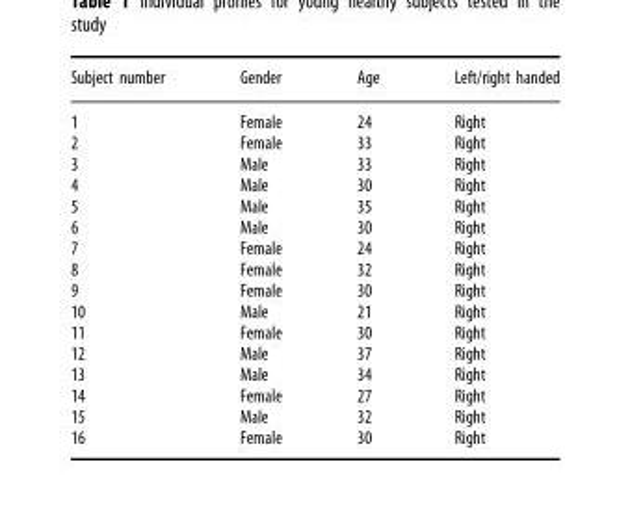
<table><thead><tr><td>Subject number</td><td>Gender</td><td>Age</td><td>Left/right handed</td></tr></thead><tbody><tr><td>1</td><td>Female</td><td>24</td><td>Right</td></tr><tr><td>2</td><td>Female</td><td>33</td><td>Right</td></tr><tr><td>3</td><td>Male</td><td>33</td><td>Right</td></tr><tr><td>4</td><td>Male</td><td>30</td><td>Right</td></tr><tr><td>5</td><td>Male</td><td>35</td><td>Right</td></tr><tr><td>6</td><td>Male</td><td>30</td><td>Right</td></tr><tr><td>7</td><td>Female</td><td>24</td><td>Right</td></tr><tr><td>8</td><td>Female</td><td>32</td><td>Right</td></tr><tr><td>9</td><td>Female</td><td>30</td><td>Right</td></tr><tr><td>10</td><td>Male</td><td>21</td><td>Right</td></tr><tr><td>11</td><td>Female</td><td>30</td><td>Right</td></tr><tr><td>12</td><td>Male</td><td>37</td><td>Right</td></tr><tr><td>13</td><td>Male</td><td>34</td><td>Right</td></tr><tr><td>14</td><td>Female</td><td>27</td><td>Right</td></tr><tr><td>15</td><td>Male</td><td>32</td><td>Right</td></tr><tr><td>16</td><td>Female</td><td>30</td><td>Right</td></tr></tbody></table>